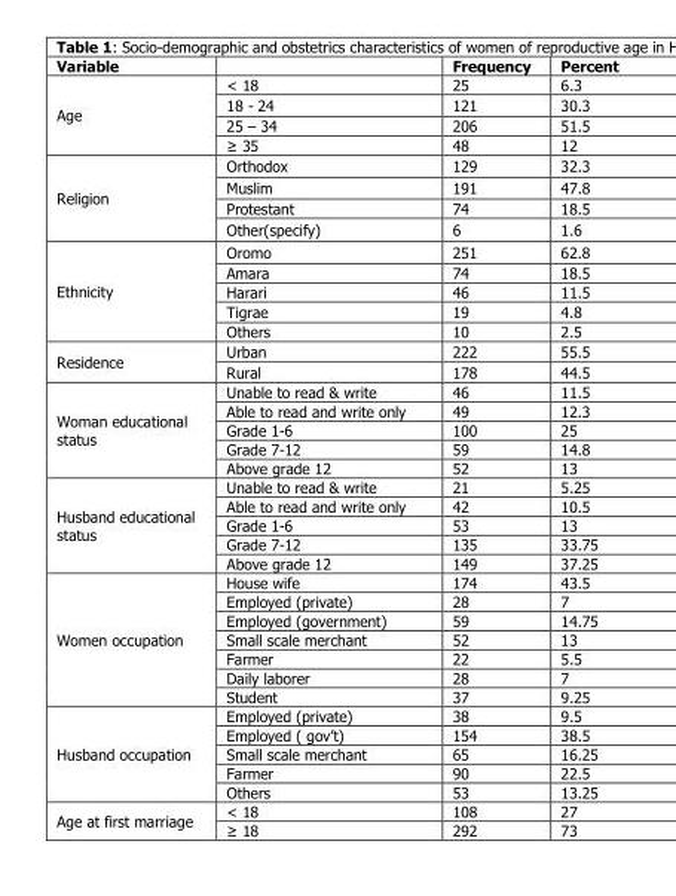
<table><thead><tr><td>Variable</td><td></td><td>Frequency</td><td>Percent</td></tr></thead><tbody><tr><td rowspan="4">Age</td><td>&lt; 18</td><td>25</td><td>6.3</td></tr><tr><td>18 - 24</td><td>121</td><td>30.3</td></tr><tr><td>25 – 34</td><td>206</td><td>51.5</td></tr><tr><td>≥ 35</td><td>48</td><td>12</td></tr><tr><td rowspan="4">Religion</td><td>Orthodox</td><td>129</td><td>32.3</td></tr><tr><td>Muslim</td><td>191</td><td>47.8</td></tr><tr><td>Protestant</td><td>74</td><td>18.5</td></tr><tr><td>Other(specify)</td><td>6</td><td>1.6</td></tr><tr><td rowspan="5">Ethnicity</td><td>Oromo</td><td>251</td><td>62.8</td></tr><tr><td>Amara</td><td>74</td><td>18.5</td></tr><tr><td>Harari</td><td>46</td><td>11.5</td></tr><tr><td>Tigrae</td><td>19</td><td>4.8</td></tr><tr><td>Others</td><td>10</td><td>2.5</td></tr><tr><td rowspan="2">Residence</td><td>Urban</td><td>222</td><td>55.5</td></tr><tr><td>Rural</td><td>178</td><td>44.5</td></tr><tr><td rowspan="5">Woman educational status</td><td>Unable to read &amp; write</td><td>46</td><td>11.5</td></tr><tr><td>Able to read and write only</td><td>49</td><td>12.3</td></tr><tr><td>Grade 1-6</td><td>100</td><td>25</td></tr><tr><td>Grade 7-12</td><td>59</td><td>14.8</td></tr><tr><td>Above grade 12</td><td>52</td><td>13</td></tr><tr><td rowspan="5">Husband educational status</td><td>Unable to read &amp; write</td><td>21</td><td>5.25</td></tr><tr><td>Able to read and write only</td><td>42</td><td>10.5</td></tr><tr><td>Grade 1-6</td><td>53</td><td>13</td></tr><tr><td>Grade 7-12</td><td>135</td><td>33.75</td></tr><tr><td>Above grade 12</td><td>149</td><td>37.25</td></tr><tr><td rowspan="7">Women occupation</td><td>House wife</td><td>174</td><td>43.5</td></tr><tr><td>Employed (private)</td><td>28</td><td>7</td></tr><tr><td>Employed (government)</td><td>59</td><td>14.75</td></tr><tr><td>Small scale merchant</td><td>52</td><td>13</td></tr><tr><td>Farmer</td><td>22</td><td>5.5</td></tr><tr><td>Daily laborer</td><td>28</td><td>7</td></tr><tr><td>Student</td><td>37</td><td>9.25</td></tr><tr><td rowspan="5">Husband occupation</td><td>Employed (private)</td><td>38</td><td>9.5</td></tr><tr><td>Employed ( gov’t)</td><td>154</td><td>38.5</td></tr><tr><td>Small scale merchant</td><td>65</td><td>16.25</td></tr><tr><td>Farmer</td><td>90</td><td>22.5</td></tr><tr><td>Others</td><td>53</td><td>13.25</td></tr><tr><td rowspan="2">Age at first marriage</td><td>&lt; 18</td><td>108</td><td>27</td></tr><tr><td>≥ 18</td><td>292</td><td>73</td></tr></tbody></table>